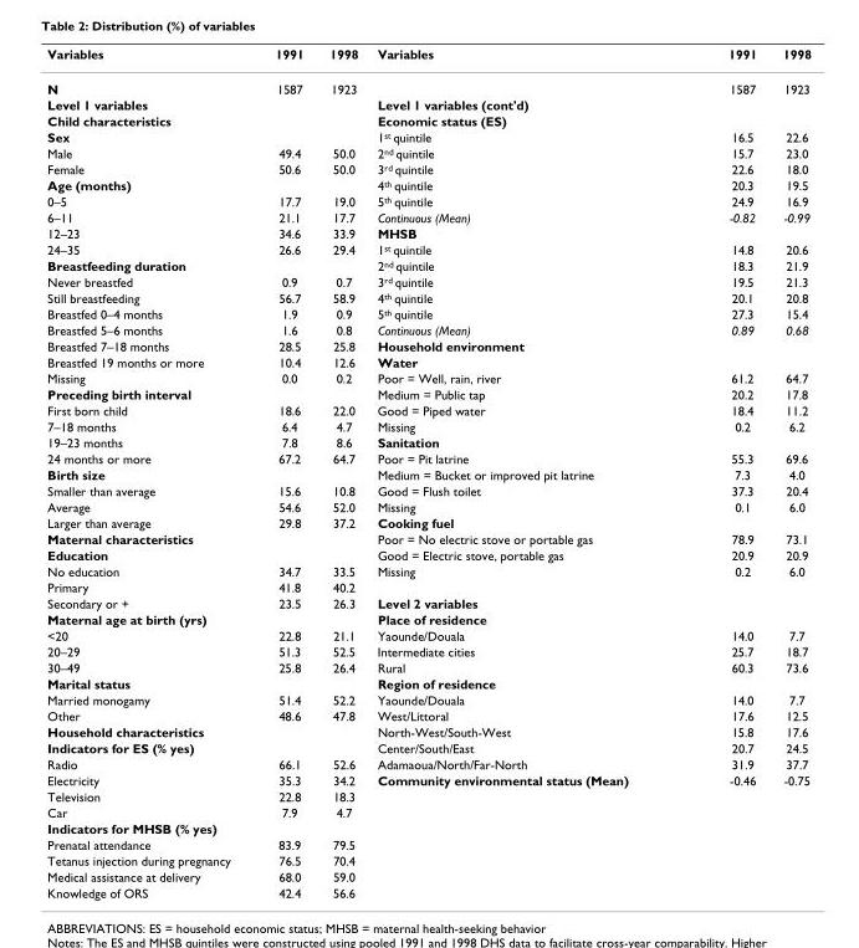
<table><thead><tr><td>Variables</td><td>1991</td><td>1998</td><td>Variables</td><td>1991</td><td>1998</td></tr></thead><tbody><tr><td>N</td><td>1587</td><td>1923</td><td></td><td>1587</td><td>1923</td></tr><tr><td>Level 1 variables</td><td></td><td></td><td>Level 1 variables (cont&#x27;d)</td><td></td><td></td></tr><tr><td>Child characteristics</td><td></td><td></td><td>Economic status (ES)</td><td></td><td></td></tr><tr><td>Sex</td><td></td><td></td><td>1st quintile</td><td>16.5</td><td>22.6</td></tr><tr><td>Male</td><td>49.4</td><td>50.0</td><td>2nd quintile</td><td>15.7</td><td>23.0</td></tr><tr><td>Female</td><td>50.6</td><td>50.0</td><td>3rd quintile</td><td>22.6</td><td>18.0</td></tr><tr><td>Age (months)</td><td></td><td></td><td>4th quintile</td><td>20.3</td><td>19.5</td></tr><tr><td>0–5</td><td>17.7</td><td>19.0</td><td>5th quintile</td><td>24.9</td><td>16.9</td></tr><tr><td>6–11</td><td>21.1</td><td>17.7</td><td>Continuous (Mean)</td><td>-0.82</td><td>-0.99</td></tr><tr><td>12–23</td><td>34.6</td><td>33.9</td><td>MHSB</td><td></td><td></td></tr><tr><td>24–35</td><td>26.6</td><td>29.4</td><td>1st quintile</td><td>14.8</td><td>20.6</td></tr><tr><td>Breastfeeding duration</td><td></td><td></td><td>2nd quintile</td><td>18.3</td><td>21.9</td></tr><tr><td>Never breastfed</td><td>0.9</td><td>0.7</td><td>3rd quintile</td><td>19.5</td><td>21.3</td></tr><tr><td>Still breastfeeding</td><td>56.7</td><td>58.9</td><td>4th quintile</td><td>20.1</td><td>20.8</td></tr><tr><td>Breastfed 0–4 months</td><td>1.9</td><td>0.9</td><td>5th quintile</td><td>27.3</td><td>15.4</td></tr><tr><td>Breastfed 5–6 months</td><td>1.6</td><td>0.8</td><td>Continuous (Mean)</td><td>0.89</td><td>0.68</td></tr><tr><td>Breastfed 7–18 months</td><td>28.5</td><td>25.8</td><td>Household environment</td><td></td><td></td></tr><tr><td>Breastfed 19 months or more</td><td>10.4</td><td>12.6</td><td>Water</td><td></td><td></td></tr><tr><td>Missing</td><td>0.0</td><td>0.2</td><td>Poor = Well, rain, river</td><td>61.2</td><td>64.7</td></tr><tr><td>Preceding birth interval</td><td></td><td></td><td>Medium = Public tap</td><td>20.2</td><td>17.8</td></tr><tr><td>First born child</td><td>18.6</td><td>22.0</td><td>Good = Piped water</td><td>18.4</td><td>11.2</td></tr><tr><td>7–18 months</td><td>6.4</td><td>4.7</td><td>Missing</td><td>0.2</td><td>6.2</td></tr><tr><td>19–23 months</td><td>7.8</td><td>8.6</td><td>Sanitation</td><td></td><td></td></tr><tr><td>24 months or more</td><td>67.2</td><td>64.7</td><td>Poor = Pit latrine</td><td>55.3</td><td>69.6</td></tr><tr><td>Birth size</td><td></td><td></td><td>Medium = Bucket or improved pit latrine</td><td>7.3</td><td>4.0</td></tr><tr><td>Smaller than average</td><td>15.6</td><td>10.8</td><td>Good = Flush toilet</td><td>37.3</td><td>20.4</td></tr><tr><td>Average</td><td>54.6</td><td>52.0</td><td>Missing</td><td>0.1</td><td>6.0</td></tr><tr><td>Larger than average</td><td>29.8</td><td>37.2</td><td>Cooking fuel</td><td></td><td></td></tr><tr><td>Maternal characteristics</td><td></td><td></td><td>Poor = No electric stove or portable gas</td><td>78.9</td><td>73.1</td></tr><tr><td>Education</td><td></td><td></td><td>Good = Electric stove, portable gas</td><td>20.9</td><td>20.9</td></tr><tr><td>No education</td><td>34.7</td><td>33.5</td><td>Missing</td><td>0.2</td><td>6.0</td></tr><tr><td>Primary</td><td>41.8</td><td>40.2</td><td></td><td></td><td></td></tr><tr><td>Secondary or +</td><td>23.5</td><td>26.3</td><td>Level 2 variables</td><td></td><td></td></tr><tr><td>Maternal age at birth (yrs)</td><td></td><td></td><td>Place of residence</td><td></td><td></td></tr><tr><td>&lt;20</td><td>22.8</td><td>21.1</td><td>Yaounde/Douala</td><td>14.0</td><td>7.7</td></tr><tr><td>20–29</td><td>51.3</td><td>52.5</td><td>Intermediate cities</td><td>25.7</td><td>18.7</td></tr><tr><td>30–49</td><td>25.8</td><td>26.4</td><td>Rural</td><td>60.3</td><td>73.6</td></tr><tr><td>Marital status</td><td></td><td></td><td>Region of residence</td><td></td><td></td></tr><tr><td>Married monogamy</td><td>51.4</td><td>52.2</td><td>Yaounde/Douala</td><td>14.0</td><td>7.7</td></tr><tr><td>Other</td><td>48.6</td><td>47.8</td><td>West/Littoral</td><td>17.6</td><td>12.5</td></tr><tr><td>Household characteristics</td><td></td><td></td><td>North-West/South-West</td><td>15.8</td><td>17.6</td></tr><tr><td>Indicators for ES (% yes)</td><td></td><td></td><td>Center/South/East</td><td>20.7</td><td>24.5</td></tr><tr><td>Radio</td><td>66.1</td><td>52.6</td><td>Adamaoua/North/Far-North</td><td>31.9</td><td>37.7</td></tr><tr><td>Electricity</td><td>35.3</td><td>34.2</td><td>Community environmental status (Mean)</td><td>-0.46</td><td>-0.75</td></tr><tr><td>Television</td><td>22.8</td><td>18.3</td><td></td><td></td><td></td></tr><tr><td>Car</td><td>7.9</td><td>4.7</td><td></td><td></td><td></td></tr><tr><td colspan="6">Indicators for MHSB (% yes)</td></tr><tr><td>Prenatal attendance</td><td>83.9</td><td>79.5</td><td></td><td></td><td></td></tr><tr><td>Tetanus injection during pregnancy</td><td>76.5</td><td>70.4</td><td></td><td></td><td></td></tr><tr><td>Medical assistance at delivery</td><td>68.0</td><td>59.0</td><td></td><td></td><td></td></tr><tr><td>Knowledge of ORS</td><td>42.4</td><td>56.6</td><td></td><td></td><td></td></tr></tbody></table>